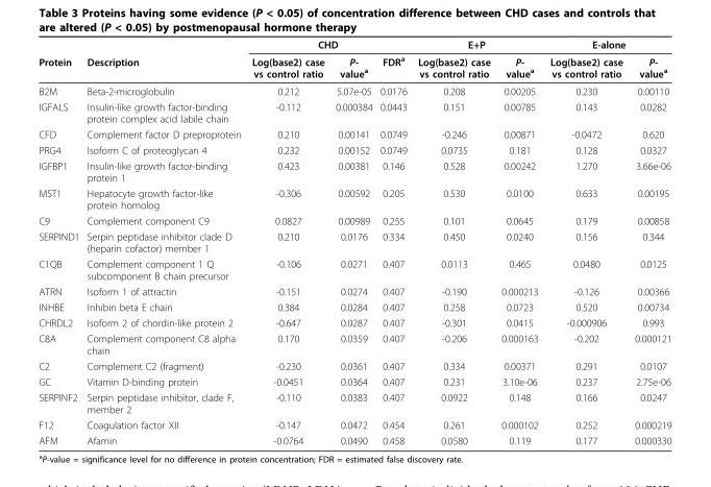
<table><thead><tr><td rowspan="2">Protein</td><td rowspan="2">Description</td><td colspan="3">CHD</td><td colspan="2">E+P</td><td colspan="2">E-alone</td></tr><tr><td>Log(base2) case vs control ratio</td><td>P- value<sup>a</sup></td><td>FDR<sup>a</sup></td><td>Log(base2) case vs control ratio</td><td>P- value<sup>a</sup></td><td>Log(base2) case vs control ratio</td><td>P- value<sup>a</sup></td></tr></thead><tbody><tr><td>B2M</td><td>Beta-2-microglobulin</td><td>0.212</td><td>5.07e-05</td><td>0.0176</td><td>0.208</td><td>0.00205</td><td>0.230</td><td>0.00110</td></tr><tr><td>IGFALS</td><td>Insulin-like growth factor-binding protein complex acid labile chain</td><td>-0.112</td><td>0.000384</td><td>0.0443</td><td>0.151</td><td>0.00785</td><td>0.143</td><td>0.0282</td></tr><tr><td>CFD</td><td>Complement factor D preproprotein</td><td>0.210</td><td>0.00141</td><td>0.0749</td><td>-0.246</td><td>0.00871</td><td>-0.0472</td><td>0.620</td></tr><tr><td>PRG4</td><td>Isoform C of proteoglycan 4</td><td>0.232</td><td>0.00152</td><td>0.0749</td><td>0.0735</td><td>0.181</td><td>0.128</td><td>0.0327</td></tr><tr><td>IGFBP1</td><td>Insulin-like growth factor-binding protein 1</td><td>0.423</td><td>0.00381</td><td>0.146</td><td>0.528</td><td>0.00242</td><td>1.270</td><td>3.66e-06</td></tr><tr><td>MST1</td><td>Hepatocyte growth factor-like protein homolog</td><td>-0.306</td><td>0.00592</td><td>0.205</td><td>0.530</td><td>0.0100</td><td>0.633</td><td>0.00195</td></tr><tr><td>C9</td><td>Complement component C9</td><td>0.0827</td><td>0.00989</td><td>0.255</td><td>0.101</td><td>0.0645</td><td>0.179</td><td>0.00858</td></tr><tr><td>SERPIND1</td><td>Serpin peptidase inhibitor clade D (heparin cofactor) member 1</td><td>0.210</td><td>0.0176</td><td>0.334</td><td>0.450</td><td>0.0240</td><td>0.156</td><td>0.344</td></tr><tr><td>C1QB</td><td>Complement component 1 Q subcomponent B chain precursor</td><td>-0.106</td><td>0.0271</td><td>0.407</td><td>0.0113</td><td>0.465</td><td>0.0480</td><td>0.0125</td></tr><tr><td>ATRN</td><td>Isoform 1 of attractin</td><td>-0.151</td><td>0.0274</td><td>0.407</td><td>-0.190</td><td>0.000213</td><td>-0.126</td><td>0.00366</td></tr><tr><td>INHBE</td><td>Inhibin beta E chain</td><td>0.384</td><td>0.0284</td><td>0.407</td><td>0.258</td><td>0.0723</td><td>0.520</td><td>0.00734</td></tr><tr><td>CHRDL2</td><td>Isoform 2 of chordin-like protein 2</td><td>-0.647</td><td>0.0287</td><td>0.407</td><td>-0.301</td><td>0.0415</td><td>-0.000906</td><td>0.993</td></tr><tr><td>C8A</td><td>Complement component C8 alpha chain</td><td>0.170</td><td>0.0359</td><td>0.407</td><td>-0.206</td><td>0.000163</td><td>-0.202</td><td>0.000121</td></tr><tr><td>C2</td><td>Complement C2 (fragment)</td><td>-0.230</td><td>0.0361</td><td>0.407</td><td>0.334</td><td>0.00371</td><td>0.291</td><td>0.0107</td></tr><tr><td>GC</td><td>Vitamin D-binding protein</td><td>-0.0451</td><td>0.0364</td><td>0.407</td><td>0.231</td><td>3.10e-06</td><td>0.237</td><td>2.75e-06</td></tr><tr><td>SERPINF2</td><td>Serpin peptidase inhibitor, clade F, member 2</td><td>-0.110</td><td>0.0383</td><td>0.407</td><td>0.0922</td><td>0.148</td><td>0.166</td><td>0.0247</td></tr><tr><td>F12</td><td>Coagulation factor XII</td><td>-0.147</td><td>0.0472</td><td>0.454</td><td>0.261</td><td>0.000102</td><td>0.252</td><td>0.000219</td></tr><tr><td>AFM</td><td>Afamin</td><td>-0.0764</td><td>0.0490</td><td>0.458</td><td>0.0580</td><td>0.119</td><td>0.177</td><td>0.000330</td></tr></tbody></table>